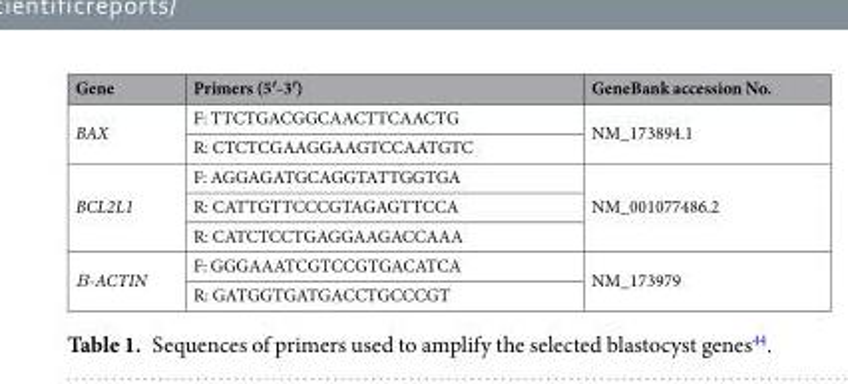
<table><thead><tr><td>Gene</td><td>Primers (5′-3′)</td><td>GeneBank accession No.</td></tr></thead><tbody><tr><td rowspan="2">BAX</td><td>F: TTCTGACGGCAACTTCAACTG</td><td rowspan="2">NM_173894.1</td></tr><tr><td>R: CTCTCGAAGGAAGTCCAATGTC</td></tr><tr><td rowspan="3">BCL2L1</td><td>F: AGGAGATGCAGGTATTGGTGA</td><td rowspan="3">NM_001077486.2</td></tr><tr><td>R: CATTGTTCCCGTAGAGTTCCA</td></tr><tr><td>R: CATCTCCTGAGGAAGACCAAA</td></tr><tr><td rowspan="2">Β-ACTIN</td><td>F: GGGAAATCGTCCGTGACATCA</td><td rowspan="2">NM_173979</td></tr><tr><td>R: GATGGTGATGACCTGCCCGT</td></tr></tbody></table>